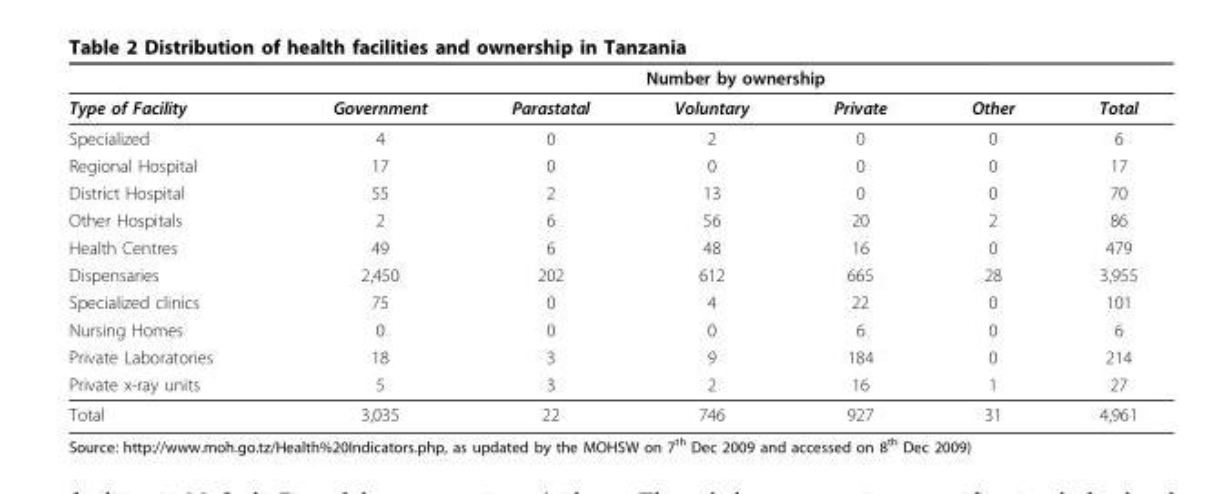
<table><thead><tr><td rowspan="2">Type of Facility</td><td colspan="6">Number by ownership</td></tr><tr><td>Government</td><td>Parastatal</td><td>Voluntary</td><td>Private</td><td>Other</td><td>Total</td></tr></thead><tbody><tr><td>Specialized</td><td>4</td><td>0</td><td>2</td><td>0</td><td>0</td><td>6</td></tr><tr><td>Regional Hospital</td><td>17</td><td>0</td><td>0</td><td>0</td><td>0</td><td>17</td></tr><tr><td>District Hospital</td><td>55</td><td>2</td><td>13</td><td>0</td><td>0</td><td>70</td></tr><tr><td>Other Hospitals</td><td>2</td><td>6</td><td>56</td><td>20</td><td>2</td><td>86</td></tr><tr><td>Health Centres</td><td>49</td><td>6</td><td>48</td><td>16</td><td>0</td><td>479</td></tr><tr><td>Dispensaries</td><td>2,450</td><td>202</td><td>612</td><td>665</td><td>28</td><td>3,955</td></tr><tr><td>Specialized clinics</td><td>75</td><td>0</td><td>4</td><td>22</td><td>0</td><td>101</td></tr><tr><td>Nursing Homes</td><td>0</td><td>0</td><td>0</td><td>6</td><td>0</td><td>6</td></tr><tr><td>Private Laboratories</td><td>18</td><td>3</td><td>9</td><td>184</td><td>0</td><td>214</td></tr><tr><td>Private x-ray units</td><td>5</td><td>3</td><td>2</td><td>16</td><td>1</td><td>27</td></tr><tr><td>Total</td><td>3,035</td><td>22</td><td>746</td><td>927</td><td>31</td><td>4,961</td></tr></tbody></table>